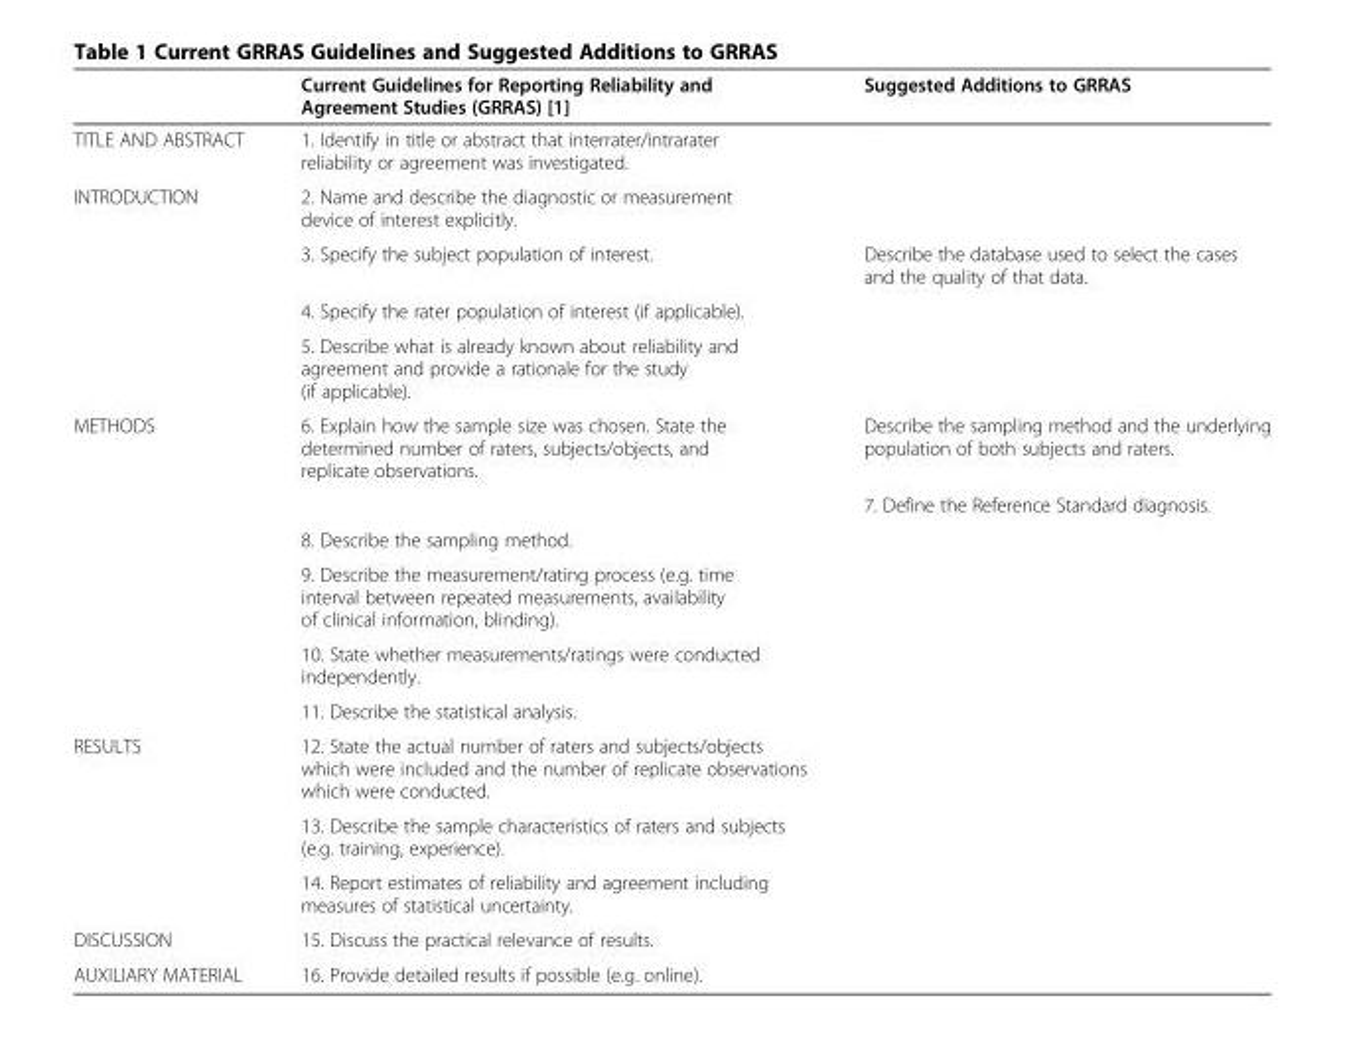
<table><thead><tr><td></td><td>Current Guidelines for Reporting Reliability and Agreement Studies (GRRAS) [1]</td><td>Suggested Additions to GRRAS</td></tr></thead><tbody><tr><td>TITLE AND ABSTRACT</td><td>1. Identify in title or abstract that interrater/intrarater reliability or agreement was investigated.</td><td></td></tr><tr><td rowspan="4">INTRODUCTION</td><td>2. Name and describe the diagnostic or measurement device of interest explicitly.</td><td></td></tr><tr><td>3. Specify the subject population of interest.</td><td>Describe the database used to select the cases and the quality of that data.</td></tr><tr><td>4. Specify the rater population of interest (if applicable).</td><td></td></tr><tr><td>5. Describe what is already known about reliability and agreement and provide a rationale for the study (if applicable).</td><td></td></tr><tr><td rowspan="6">METHODS</td><td>6. Explain how the sample size was chosen. State the determined number of raters, subjects/objects, and replicate observations.</td><td>Describe the sampling method and the underlying population of both subjects and raters.</td></tr><tr><td></td><td>7. Define the Reference Standard diagnosis.</td></tr><tr><td>8. Describe the sampling method.</td><td></td></tr><tr><td>9. Describe the measurement/rating process (e.g. time interval between repeated measurements, availability of clinical information, blinding).</td><td></td></tr><tr><td>10. State whether measurements/ratings were conducted independently.</td><td></td></tr><tr><td>11. Describe the statistical analysis.</td><td></td></tr><tr><td rowspan="3">RESULTS</td><td>12. State the actual number of raters and subjects/objects which were included and the number of replicate observations which were conducted.</td><td></td></tr><tr><td>13. Describe the sample characteristics of raters and subjects (e.g. training, experience).</td><td></td></tr><tr><td>14. Report estimates of reliability and agreement including measures of statistical uncertainty.</td><td></td></tr><tr><td>DISCUSSION</td><td>15. Discuss the practical relevance of results.</td><td></td></tr><tr><td>AUXILIARY MATERIAL</td><td>16. Provide detailed results if possible (e.g. online).</td><td></td></tr></tbody></table>